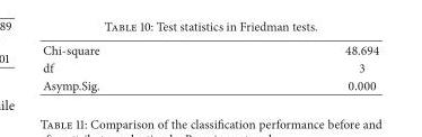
<table><tbody><tr><td>Chi-square</td><td>48.694</td></tr><tr><td>df</td><td>3</td></tr><tr><td>Asymp.Sig.</td><td>0.000</td></tr></tbody></table>